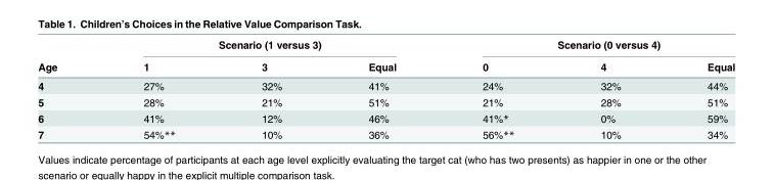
<table><thead><tr><td rowspan="2">Age</td><td colspan="3">Scenario (1 versus 3)</td><td colspan="3">Scenario (0 versus 4)</td></tr><tr><td>1</td><td>3</td><td>Equal</td><td>0</td><td>4</td><td>Equal</td></tr></thead><tbody><tr><td>4</td><td>27%</td><td>32%</td><td>41%</td><td>24%</td><td>32%</td><td>44%</td></tr><tr><td>5</td><td>28%</td><td>21%</td><td>51%</td><td>21%</td><td>28%</td><td>51%</td></tr><tr><td>6</td><td>41%</td><td>12%</td><td>46%</td><td>41%*</td><td>0%</td><td>59%</td></tr><tr><td>7</td><td>54%**</td><td>10%</td><td>36%</td><td>56%**</td><td>10%</td><td>34%</td></tr></tbody></table>